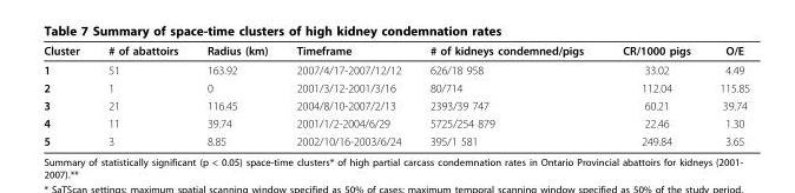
<table><thead><tr><td>Cluster</td><td># of abattoirs</td><td>Radius (km)</td><td>Timeframe</td><td># of kidneys condemned/pigs</td><td>CR/1000 pigs</td><td>O/E</td></tr></thead><tbody><tr><td>1</td><td>51</td><td>163.92</td><td>2007/4/17-2007/12/12</td><td>626/18 958</td><td>33.02</td><td>4.49</td></tr><tr><td>2</td><td>1</td><td>0</td><td>2001/3/12-2001/3/16</td><td>80/714</td><td>112.04</td><td>115.85</td></tr><tr><td>3</td><td>21</td><td>116.45</td><td>2004/8/10-2007/2/13</td><td>2393/39 747</td><td>60.21</td><td>39.74</td></tr><tr><td>4</td><td>11</td><td>39.74</td><td>2001/1/2-2004/6/29</td><td>5725/254 879</td><td>22.46</td><td>1.30</td></tr><tr><td>5</td><td>3</td><td>8.85</td><td>2002/10/16-2003/6/24</td><td>395/1 581</td><td>249.84</td><td>3.65</td></tr></tbody></table>